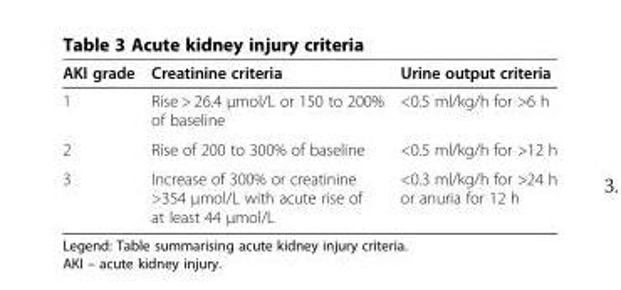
<table><thead><tr><td>AKI grade</td><td>Creatinine criteria</td><td>Urine output criteria</td></tr></thead><tbody><tr><td>1</td><td>Rise &gt; 26.4 μmol/L or 150 to 200% of baseline</td><td>&lt;0.5 ml/kg/h for &gt;6 h</td></tr><tr><td>2</td><td>Rise of 200 to 300% of baseline</td><td>&lt;0.5 ml/kg/h for &gt;12 h</td></tr><tr><td>3</td><td>Increase of 300% or creatinine &gt;354 μmol/L with acute rise of at least 44 μmol/L</td><td>&lt;0.3 ml/kg/h for &gt;24 h or anuria for 12 h</td></tr></tbody></table>